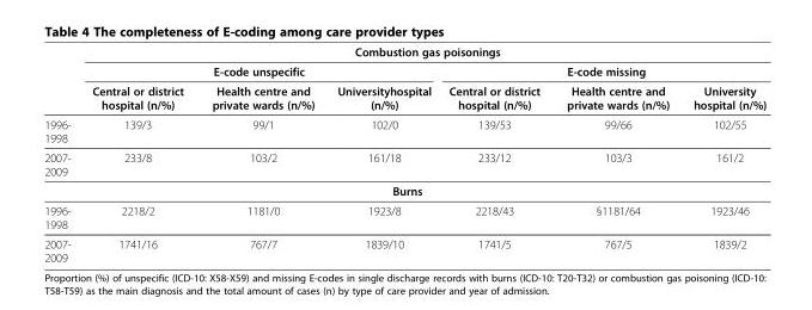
<table><thead><tr><td rowspan="3"></td><td colspan="6">Combustion gas poisonings</td></tr><tr><td colspan="3">E-code unspecific</td><td colspan="3">E-code missing</td></tr><tr><td>Central or district hospital (n/%)</td><td>Health centre and private wards (n/%)</td><td>Universityhospital (n/%)</td><td>Central or district hospital (n/%)</td><td>Health centre and private wards (n/%)</td><td>University hospital (n/%)</td></tr></thead><tbody><tr><td>1996- 1998</td><td>139/3</td><td>99/1</td><td>102/0</td><td>139/53</td><td>99/66</td><td>102/55</td></tr><tr><td>2007- 2009</td><td>233/8</td><td>103/2</td><td>161/18</td><td>233/12</td><td>103/3</td><td>161/2</td></tr><tr><td colspan="7">Burns</td></tr><tr><td>1996- 1998</td><td>2218/2</td><td>1181/0</td><td>1923/8</td><td>2218/43</td><td>§1181/64</td><td>1923/46</td></tr><tr><td>2007- 2009</td><td>1741/16</td><td>767/7</td><td>1839/10</td><td>1741/5</td><td>767/5</td><td>1839/2</td></tr></tbody></table>